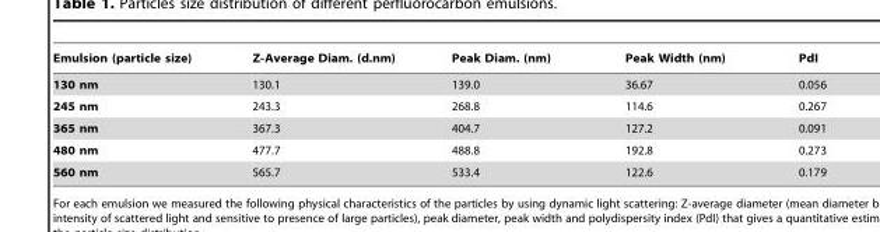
<table><thead><tr><td>Emulsion (particle size)</td><td>Z-Average Diam. (d.nm)</td><td>Peak Diam. (nm)</td><td>Peak Width (nm)</td><td>PdI</td></tr></thead><tbody><tr><td>130 nm</td><td>130.1</td><td>139.0</td><td>36.67</td><td>0.056</td></tr><tr><td>245 nm</td><td>243.3</td><td>268.8</td><td>114.6</td><td>0.267</td></tr><tr><td>365 nm</td><td>367.3</td><td>404.7</td><td>127.2</td><td>0.091</td></tr><tr><td>480 nm</td><td>477.7</td><td>488.8</td><td>192.8</td><td>0.273</td></tr><tr><td>560 nm</td><td>565.7</td><td>533.4</td><td>122.6</td><td>0.179</td></tr></tbody></table>